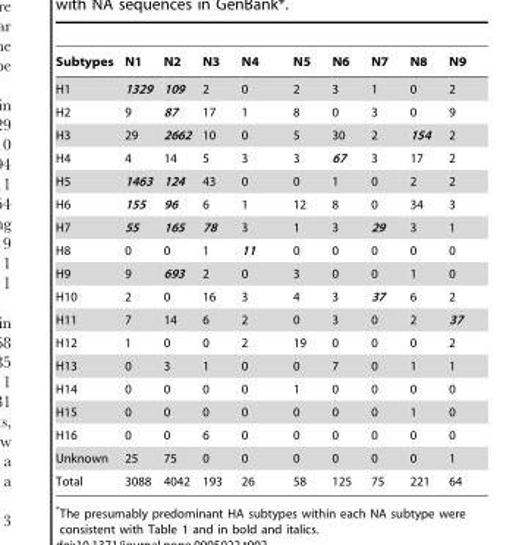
<table><thead><tr><td>Subtypes</td><td>N1</td><td>N2</td><td>N3</td><td>N4</td><td>N5</td><td>N6</td><td>N7</td><td>N8</td><td>N9</td></tr></thead><tbody><tr><td>H1</td><td>1329</td><td>109</td><td>2</td><td>0</td><td>2</td><td>3</td><td>1</td><td>0</td><td>2</td></tr><tr><td>H2</td><td>9</td><td>87</td><td>17</td><td>1</td><td>8</td><td>0</td><td>3</td><td>0</td><td>9</td></tr><tr><td>H3</td><td>29</td><td>2662</td><td>10</td><td>0</td><td>5</td><td>30</td><td>2</td><td>154</td><td>2</td></tr><tr><td>H4</td><td>4</td><td>14</td><td>5</td><td>3</td><td>3</td><td>67</td><td>3</td><td>17</td><td>2</td></tr><tr><td>H5</td><td>1463</td><td>124</td><td>43</td><td>0</td><td>0</td><td>1</td><td>0</td><td>2</td><td>2</td></tr><tr><td>H6</td><td>155</td><td>96</td><td>6</td><td>1</td><td>12</td><td>8</td><td>0</td><td>34</td><td>3</td></tr><tr><td>H7</td><td>55</td><td>165</td><td>78</td><td>3</td><td>1</td><td>3</td><td>29</td><td>3</td><td>1</td></tr><tr><td>H8</td><td>0</td><td>0</td><td>1</td><td>11</td><td>0</td><td>0</td><td>0</td><td>0</td><td>0</td></tr><tr><td>H9</td><td>9</td><td>693</td><td>2</td><td>0</td><td>3</td><td>0</td><td>0</td><td>1</td><td>0</td></tr><tr><td>H10</td><td>2</td><td>0</td><td>16</td><td>3</td><td>4</td><td>3</td><td>37</td><td>6</td><td>2</td></tr><tr><td>H11</td><td>7</td><td>14</td><td>6</td><td>2</td><td>0</td><td>3</td><td>0</td><td>2</td><td>37</td></tr><tr><td>H12</td><td>1</td><td>0</td><td>0</td><td>2</td><td>19</td><td>0</td><td>0</td><td>0</td><td>2</td></tr><tr><td>H13</td><td>0</td><td>3</td><td>1</td><td>0</td><td>0</td><td>7</td><td>0</td><td>1</td><td>1</td></tr><tr><td>H14</td><td>0</td><td>0</td><td>0</td><td>0</td><td>1</td><td>0</td><td>0</td><td>0</td><td>0</td></tr><tr><td>H15</td><td>0</td><td>0</td><td>0</td><td>0</td><td>0</td><td>0</td><td>0</td><td>1</td><td>0</td></tr><tr><td>H16</td><td>0</td><td>0</td><td>6</td><td>0</td><td>0</td><td>0</td><td>0</td><td>0</td><td>0</td></tr><tr><td>Unknown</td><td>25</td><td>75</td><td>0</td><td>0</td><td>0</td><td>0</td><td>0</td><td>0</td><td>1</td></tr><tr><td>Total</td><td>3088</td><td>4042</td><td>193</td><td>26</td><td>58</td><td>125</td><td>75</td><td>221</td><td>64</td></tr></tbody></table>